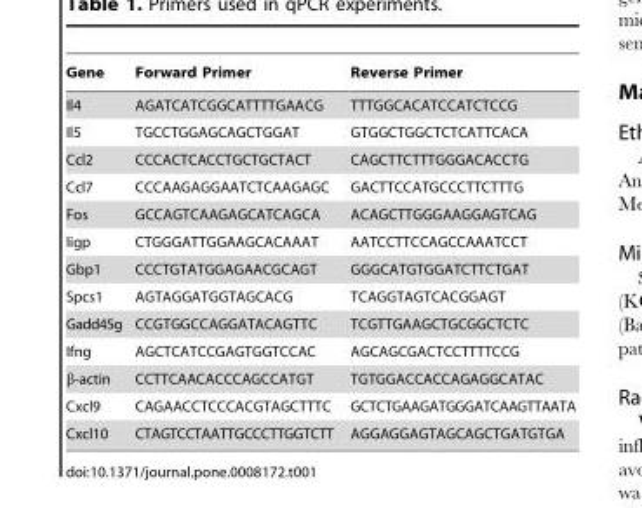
<table><thead><tr><td>Gene</td><td>Forward Primer</td><td>Reverse Primer</td></tr></thead><tbody><tr><td>Il4</td><td>AGATCATCGGCATTTTGAACG</td><td>TTTGGCACATCCATCTCCG</td></tr><tr><td>Il5</td><td>TGCCTGGAGCAGCTGGAT</td><td>GTGGCTGGCTCTCATTCACA</td></tr><tr><td>Ccl2</td><td>CCCACTCACCTGCTGCTACT</td><td>CAGCTTCTTTGGGACACCTG</td></tr><tr><td>Ccl7</td><td>CCCAAGAGGAATCTCAAGAGC</td><td>GACTTCCATGCCCTTCTTTG</td></tr><tr><td>Fos</td><td>GCCAGTCAAGAGCATCAGCA</td><td>ACAGCTTGGGAAGGAGTCAG</td></tr><tr><td>Iigp</td><td>CTGGGATTGGAAGCACAAAT</td><td>AATCCTTCCAGCCAAATCCT</td></tr><tr><td>Gbp1</td><td>CCCTGTATGGAGAACGCAGT</td><td>GGGCATGTGGATCTTCTGAT</td></tr><tr><td>Spcs1</td><td>AGTAGGATGGTAGCACG</td><td>TCAGGTAGTCACGGAGT</td></tr><tr><td>Gadd45g</td><td>CCGTGGCCAGGATACAGTTC</td><td>TCGTTGAAGCTGCGGCTCTC</td></tr><tr><td>Ifng</td><td>AGCTCATCCGAGTGGTCCAC</td><td>AGCAGCGACTCCTTTTCCG</td></tr><tr><td>β-actin</td><td>CCTTCAACACCCAGCCATGT</td><td>TGTGGACCACCAGAGGCATAC</td></tr><tr><td>Cxcl9</td><td>CAGAACCTCCCACGTAGCTTTC</td><td>GCTCTGAAGATGGGATCAAGTTAATA</td></tr><tr><td>Cxcl10</td><td>CTAGTCCTAATTGCCCTTGGTCTT</td><td>AGGAGGAGTAGCAGCTGATGTGA</td></tr></tbody></table>